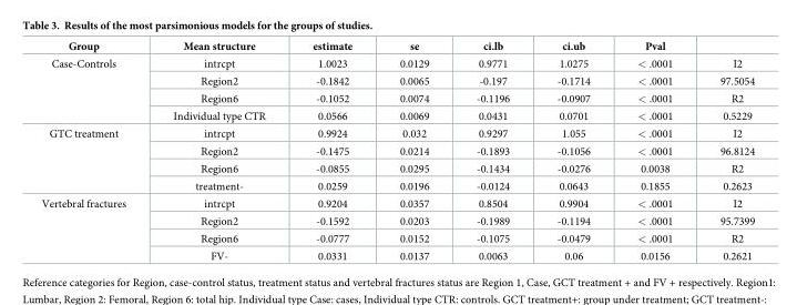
<table><thead><tr><td>Group</td><td>Mean structure</td><td>estimate</td><td>se</td><td>ci.lb</td><td>ci.ub</td><td>Pval</td><td></td></tr></thead><tbody><tr><td rowspan="4">Case-Controls</td><td>intrcpt</td><td>1.0023</td><td>0.0129</td><td>0.9771</td><td>1.0275</td><td>&lt; .0001</td><td>I2</td></tr><tr><td>Region2</td><td>-0.1842</td><td>0.0065</td><td>-0.197</td><td>-0.1714</td><td>&lt; .0001</td><td>97.5054</td></tr><tr><td>Region6</td><td>-0.1052</td><td>0.0074</td><td>-0.1196</td><td>-0.0907</td><td>&lt; .0001</td><td>R2</td></tr><tr><td>Individual type CTR</td><td>0.0566</td><td>0.0069</td><td>0.0431</td><td>0.0701</td><td>&lt; .0001</td><td>0.5229</td></tr><tr><td rowspan="4">GTC treatment</td><td>intrcpt</td><td>0.9924</td><td>0.032</td><td>0.9297</td><td>1.055</td><td>&lt; .0001</td><td>I2</td></tr><tr><td>Region2</td><td>-0.1475</td><td>0.0214</td><td>-0.1893</td><td>-0.1056</td><td>&lt; .0001</td><td>96.8124</td></tr><tr><td>Region6</td><td>-0.0855</td><td>0.0295</td><td>-0.1434</td><td>-0.0276</td><td>0.0038</td><td>R2</td></tr><tr><td>treatment-</td><td>0.0259</td><td>0.0196</td><td>-0.0124</td><td>0.0643</td><td>0.1855</td><td>0.2623</td></tr><tr><td rowspan="4">Vertebral fractures</td><td>intrcpt</td><td>0.9204</td><td>0.0357</td><td>0.8504</td><td>0.9904</td><td>&lt; .0001</td><td>I2</td></tr><tr><td>Region2</td><td>-0.1592</td><td>0.0203</td><td>-0.1989</td><td>-0.1194</td><td>&lt; .0001</td><td>95.7399</td></tr><tr><td>Region6</td><td>-0.0777</td><td>0.0152</td><td>-0.1075</td><td>-0.0479</td><td>&lt; .0001</td><td>R2</td></tr><tr><td>FV-</td><td>0.0331</td><td>0.0137</td><td>0.0063</td><td>0.06</td><td>0.0156</td><td>0.2621</td></tr></tbody></table>